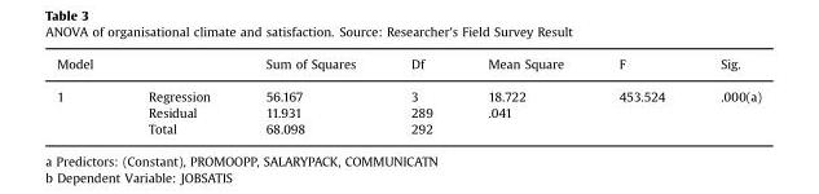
<table><thead><tr><td>Model</td><td></td><td>Sum of Squares</td><td>Df</td><td>Mean Square</td><td>F</td><td>Sig.</td></tr></thead><tbody><tr><td rowspan="3">1</td><td>Regression</td><td>56.167</td><td>3</td><td>18.722</td><td>453.524</td><td>.000(a)</td></tr><tr><td>Residual</td><td>11.931</td><td>289</td><td>.041</td><td></td><td></td></tr><tr><td>Total</td><td>68.098</td><td>292</td><td></td><td></td><td></td></tr></tbody></table>